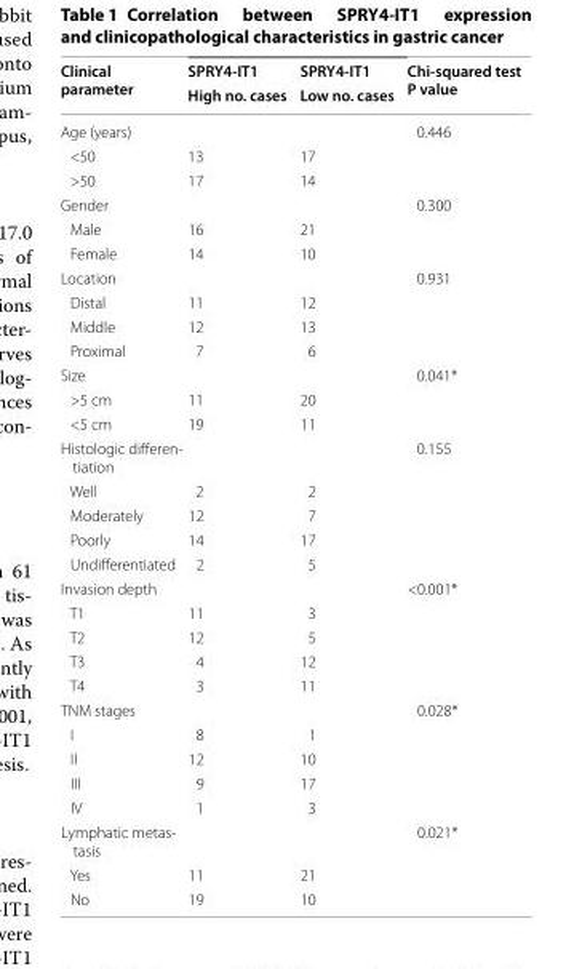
<table><thead><tr><td rowspan="2">Clinical parameter</td><td rowspan="2">SPRY4‑IT1 High no. cases</td><td rowspan="2">SPRY4‑IT1 Low no. cases</td><td rowspan="2">Chi‑squared test P value</td></tr><tr></tr></thead><tbody><tr><td>Age (years)</td><td></td><td></td><td>0.446</td></tr><tr><td>&lt;50</td><td>13</td><td>17</td><td></td></tr><tr><td>&gt;50</td><td>17</td><td>14</td><td></td></tr><tr><td>Gender</td><td></td><td></td><td>0.300</td></tr><tr><td>Male</td><td>16</td><td>21</td><td></td></tr><tr><td>Female</td><td>14</td><td>10</td><td></td></tr><tr><td>Location</td><td></td><td></td><td>0.931</td></tr><tr><td>Distal</td><td>11</td><td>12</td><td></td></tr><tr><td>Middle</td><td>12</td><td>13</td><td></td></tr><tr><td>Proximal</td><td>7</td><td>6</td><td></td></tr><tr><td>Size</td><td></td><td></td><td>0.041*</td></tr><tr><td>&gt;5 cm</td><td>11</td><td>20</td><td></td></tr><tr><td>&lt;5 cm</td><td>19</td><td>11</td><td></td></tr><tr><td>Histologic differen‑ tiation</td><td></td><td></td><td>0.155</td></tr><tr><td>Well</td><td>2</td><td>2</td><td></td></tr><tr><td>Moderately</td><td>12</td><td>7</td><td></td></tr><tr><td>Poorly</td><td>14</td><td>17</td><td></td></tr><tr><td>Undifferentiated</td><td>2</td><td>5</td><td></td></tr><tr><td>Invasion depth</td><td></td><td></td><td>&lt;0.001*</td></tr><tr><td>T1</td><td>11</td><td>3</td><td></td></tr><tr><td>T2</td><td>12</td><td>5</td><td></td></tr><tr><td>T3</td><td>4</td><td>12</td><td></td></tr><tr><td>T4</td><td>3</td><td>11</td><td></td></tr><tr><td>TNM stages</td><td></td><td></td><td>0.028*</td></tr><tr><td>I</td><td>8</td><td>1</td><td></td></tr><tr><td>II</td><td>12</td><td>10</td><td></td></tr><tr><td>III</td><td>9</td><td>17</td><td></td></tr><tr><td>IV</td><td>1</td><td>3</td><td></td></tr><tr><td>Lymphatic metas‑ tasis</td><td></td><td></td><td>0.021*</td></tr><tr><td>Yes</td><td>11</td><td>21</td><td></td></tr><tr><td>No</td><td>19</td><td>10</td><td></td></tr></tbody></table>